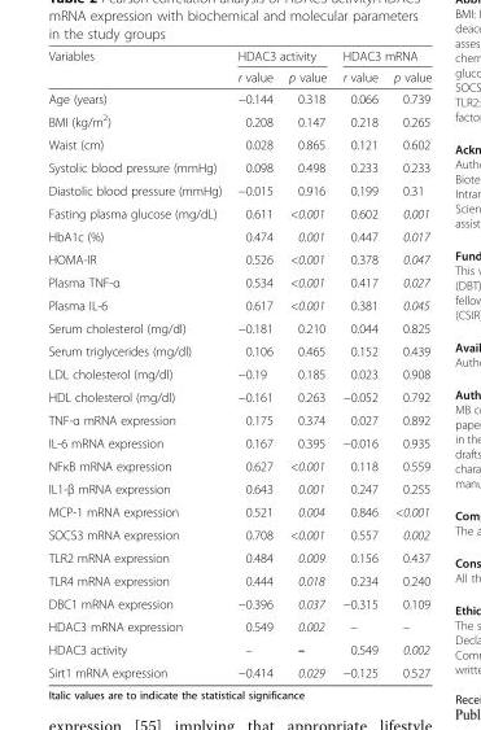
<table><thead><tr><td rowspan="2">Variables</td><td colspan="2">HDAC3 activity</td><td colspan="2">HDAC3 mRNA</td></tr><tr><td>r value</td><td>p value</td><td>r value</td><td>p value</td></tr></thead><tbody><tr><td>Age (years)</td><td>−0.144</td><td>0.318</td><td>0.066</td><td>0.739</td></tr><tr><td>BMI (kg/m<sup>2</sup>)</td><td>0.208</td><td>0.147</td><td>0.218</td><td>0.265</td></tr><tr><td>Waist (cm)</td><td>0.028</td><td>0.865</td><td>0.121</td><td>0.602</td></tr><tr><td>Systolic blood pressure (mmHg)</td><td>0.098</td><td>0.498</td><td>0.233</td><td>0.233</td></tr><tr><td>Diastolic blood pressure (mmHg)</td><td>−0.015</td><td>0.916</td><td>0.199</td><td>0.31</td></tr><tr><td>Fasting plasma glucose (mg/dL)</td><td>0.611</td><td>&lt;0.001</td><td>0.602</td><td>0.001</td></tr><tr><td>HbA1c (%)</td><td>0.474</td><td>0.001</td><td>0.447</td><td>0.017</td></tr><tr><td>HOMA-IR</td><td>0.526</td><td>&lt;0.001</td><td>0.378</td><td>0.047</td></tr><tr><td>Plasma TNF-α</td><td>0.534</td><td>&lt;0.001</td><td>0.417</td><td>0.027</td></tr><tr><td>Plasma IL-6</td><td>0.617</td><td>&lt;0.001</td><td>0.381</td><td>0.045</td></tr><tr><td>Serum cholesterol (mg/dl)</td><td>−0.181</td><td>0.210</td><td>0.044</td><td>0.825</td></tr><tr><td>Serum triglycerides (mg/dl)</td><td>0.106</td><td>0.465</td><td>0.152</td><td>0.439</td></tr><tr><td>LDL cholesterol (mg/dl)</td><td>−0.19</td><td>0.185</td><td>0.023</td><td>0.908</td></tr><tr><td>HDL cholesterol (mg/dl)</td><td>−0.161</td><td>0.263</td><td>−0.052</td><td>0.792</td></tr><tr><td>TNF-α mRNA expression</td><td>0.175</td><td>0.374</td><td>0.027</td><td>0.892</td></tr><tr><td>IL-6 mRNA expression</td><td>0.167</td><td>0.395</td><td>−0.016</td><td>0.935</td></tr><tr><td>NFκB mRNA expression</td><td>0.627</td><td>&lt;0.001</td><td>0.118</td><td>0.559</td></tr><tr><td>IL1-β mRNA expression</td><td>0.643</td><td>0.001</td><td>0.247</td><td>0.255</td></tr><tr><td>MCP-1 mRNA expression</td><td>0.521</td><td>0.004</td><td>0.846</td><td>&lt;0.001</td></tr><tr><td>SOCS3 mRNA expression</td><td>0.708</td><td>&lt;0.001</td><td>0.557</td><td>0.002</td></tr><tr><td>TLR2 mRNA expression</td><td>0.484</td><td>0.009</td><td>0.156</td><td>0.437</td></tr><tr><td>TLR4 mRNA expression</td><td>0.444</td><td>0.018</td><td>0.234</td><td>0.240</td></tr><tr><td>DBC1 mRNA expression</td><td>−0.396</td><td>0.037</td><td>−0.315</td><td>0.109</td></tr><tr><td>HDAC3 mRNA expression</td><td>0.549</td><td>0.002</td><td>–</td><td>–</td></tr><tr><td>HDAC3 activity</td><td>–</td><td>–</td><td>0.549</td><td>0.002</td></tr><tr><td>Sirt1 mRNA expression</td><td>−0.414</td><td>0.029</td><td>−0.125</td><td>0.527</td></tr></tbody></table>